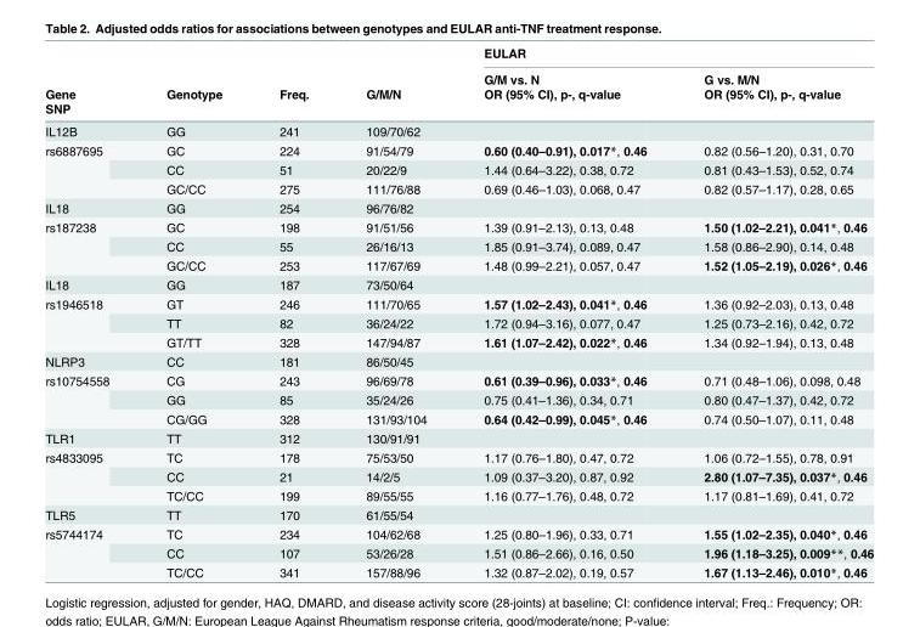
<table><thead><tr><td rowspan="4">Gene SNP</td><td rowspan="4">Genotype</td><td rowspan="4">Freq.</td><td rowspan="4">G/M/N</td><td colspan="2">EULAR</td></tr><tr><td rowspan="3">G/M vs. N OR (95% CI), p-, q-value</td><td rowspan="3">G vs. M/N OR (95% CI), p-, q-value</td></tr><tr></tr><tr></tr></thead><tbody><tr><td>IL12B</td><td>GG</td><td>241</td><td>109/70/62</td><td></td><td></td></tr><tr><td rowspan="3">rs6887695</td><td>GC</td><td>224</td><td>91/54/79</td><td>0.60 (0.40–0.91), 0.017*, 0.46</td><td>0.82 (0.56–1.20), 0.31, 0.70</td></tr><tr><td>CC</td><td>51</td><td>20/22/9</td><td>1.44 (0.64–3.22), 0.38, 0.72</td><td>0.81 (0.43–1.53), 0.52, 0.74</td></tr><tr><td>GC/CC</td><td>275</td><td>111/76/88</td><td>0.69 (0.46–1.03), 0.068, 0.47</td><td>0.82 (0.57–1.17), 0.28, 0.65</td></tr><tr><td>IL18</td><td>GG</td><td>254</td><td>96/76/82</td><td></td><td></td></tr><tr><td rowspan="3">rs187238</td><td>GC</td><td>198</td><td>91/51/56</td><td>1.39 (0.91–2.13), 0.13, 0.48</td><td>1.50 (1.02–2.21), 0.041*, 0.46</td></tr><tr><td>CC</td><td>55</td><td>26/16/13</td><td>1.85 (0.91–3.74), 0.089, 0.47</td><td>1.58 (0.86–2.90), 0.14, 0.48</td></tr><tr><td>GC/CC</td><td>253</td><td>117/67/69</td><td>1.48 (0.99–2.21), 0.057, 0.47</td><td>1.52 (1.05–2.19), 0.026*, 0.46</td></tr><tr><td>IL18</td><td>GG</td><td>187</td><td>73/50/64</td><td></td><td></td></tr><tr><td rowspan="3">rs1946518</td><td>GT</td><td>246</td><td>111/70/65</td><td>1.57 (1.02–2.43), 0.041*, 0.46</td><td>1.36 (0.92–2.03), 0.13, 0.48</td></tr><tr><td>TT</td><td>82</td><td>36/24/22</td><td>1.72 (0.94–3.16), 0.077, 0.47</td><td>1.25 (0.73–2.16), 0.42, 0.72</td></tr><tr><td>GT/TT</td><td>328</td><td>147/94/87</td><td>1.61 (1.07–2.42), 0.022*, 0.46</td><td>1.34 (0.92–1.94), 0.13, 0.48</td></tr><tr><td>NLRP3</td><td>CC</td><td>181</td><td>86/50/45</td><td></td><td></td></tr><tr><td rowspan="3">rs10754558</td><td>CG</td><td>243</td><td>96/69/78</td><td>0.61 (0.39–0.96), 0.033*, 0.46</td><td>0.71 (0.48–1.06), 0.098, 0.48</td></tr><tr><td>GG</td><td>85</td><td>35/24/26</td><td>0.75 (0.41–1.36), 0.34, 0.71</td><td>0.80 (0.47–1.37), 0.42, 0.72</td></tr><tr><td>CG/GG</td><td>328</td><td>131/93/104</td><td>0.64 (0.42–0.99), 0.045*, 0.46</td><td>0.74 (0.50–1.07), 0.11, 0.48</td></tr><tr><td>TLR1</td><td>TT</td><td>312</td><td>130/91/91</td><td></td><td></td></tr><tr><td rowspan="3">rs4833095</td><td>TC</td><td>178</td><td>75/53/50</td><td>1.17 (0.76–1.80), 0.47, 0.72</td><td>1.06 (0.72–1.55), 0.78, 0.91</td></tr><tr><td>CC</td><td>21</td><td>14/2/5</td><td>1.09 (0.37–3.20), 0.87, 0.92</td><td>2.80 (1.07–7.35), 0.037*, 0.46</td></tr><tr><td>TC/CC</td><td>199</td><td>89/55/55</td><td>1.16 (0.77–1.76), 0.48, 0.72</td><td>1.17 (0.81–1.69), 0.41, 0.72</td></tr><tr><td>TLR5</td><td>TT</td><td>170</td><td>61/55/54</td><td></td><td></td></tr><tr><td rowspan="3">rs5744174</td><td>TC</td><td>234</td><td>104/62/68</td><td>1.25 (0.80–1.96), 0.33, 0.71</td><td>1.55 (1.02–2.35), 0.040*, 0.46</td></tr><tr><td>CC</td><td>107</td><td>53/26/28</td><td>1.51 (0.86–2.66), 0.16, 0.50</td><td>1.96 (1.18–3.25), 0.009**, 0.46</td></tr><tr><td>TC/CC</td><td>341</td><td>157/88/96</td><td>1.32 (0.87–2.02), 0.19, 0.57</td><td>1.67 (1.13–2.46), 0.010*, 0.46</td></tr></tbody></table>